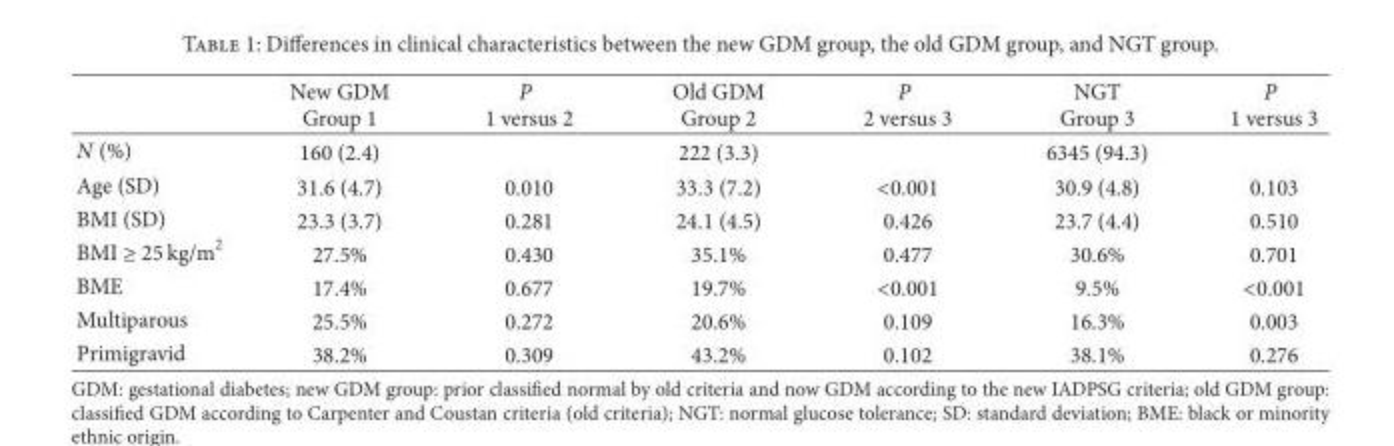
<table><thead><tr><td></td><td>New GDM Group 1</td><td>P 1 versus 2</td><td>Old GDM Group 2</td><td>P 2 versus 3</td><td>NGT Group 3</td><td>P 1 versus 3</td></tr></thead><tbody><tr><td>N (%)</td><td>160 (2.4)</td><td></td><td>222 (3.3)</td><td></td><td>6345 (94.3)</td><td></td></tr><tr><td>Age (SD)</td><td>31.6 (4.7)</td><td>0.010</td><td>33.3 (7.2)</td><td>&lt;0.001</td><td>30.9 (4.8)</td><td>0.103</td></tr><tr><td>BMI (SD)</td><td>23.3 (3.7)</td><td>0.281</td><td>24.1 (4.5)</td><td>0.426</td><td>23.7 (4.4)</td><td>0.510</td></tr><tr><td>BMI ≥ 25 kg/m<sup>2</sup></td><td>27.5%</td><td>0.430</td><td>35.1%</td><td>0.477</td><td>30.6%</td><td>0.701</td></tr><tr><td>BME</td><td>17.4%</td><td>0.677</td><td>19.7%</td><td>&lt;0.001</td><td>9.5%</td><td>&lt;0.001</td></tr><tr><td>Multiparous</td><td>25.5%</td><td>0.272</td><td>20.6%</td><td>0.109</td><td>16.3%</td><td>0.003</td></tr><tr><td>Primigravid</td><td>38.2%</td><td>0.309</td><td>43.2%</td><td>0.102</td><td>38.1%</td><td>0.276</td></tr></tbody></table>